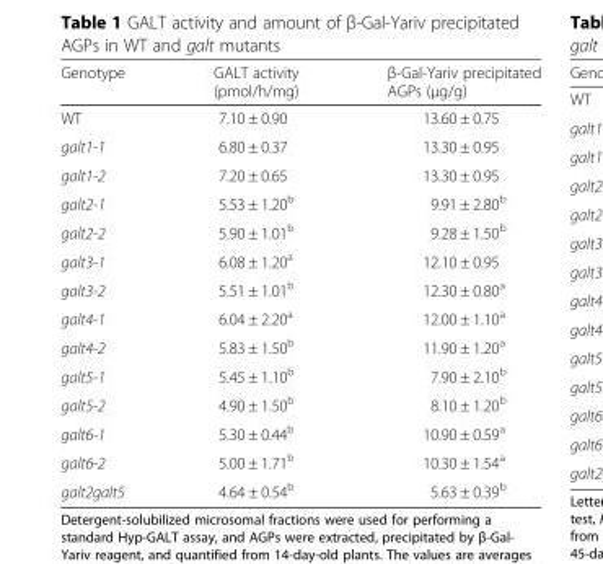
<table><thead><tr><td>Genotype</td><td>GALT activity (pmol/h/mg)</td><td>β-Gal-Yariv precipitated AGPs (μg/g)</td></tr></thead><tbody><tr><td>WT</td><td>7.10 ± 0.90</td><td>13.60 ± 0.75</td></tr><tr><td>galt1-1</td><td>6.80 ± 0.37</td><td>13.30 ± 0.95</td></tr><tr><td>galt1-2</td><td>7.20 ± 0.65</td><td>13.30 ± 0.95</td></tr><tr><td>galt2-1</td><td>5.53 ± 1.20<sup>b</sup></td><td>9.91 ± 2.80<sup>b</sup></td></tr><tr><td>galt2-2</td><td>5.90 ± 1.01<sup>b</sup></td><td>9.28 ± 1.50<sup>b</sup></td></tr><tr><td>galt3-1</td><td>6.08 ± 1.20<sup>a</sup></td><td>12.10 ± 0.95</td></tr><tr><td>galt3-2</td><td>5.51 ± 1.01<sup>b</sup></td><td>12.30 ± 0.80<sup>a</sup></td></tr><tr><td>galt4-1</td><td>6.04 ± 2.20<sup>a</sup></td><td>12.00 ± 1.10<sup>a</sup></td></tr><tr><td>galt4-2</td><td>5.83 ± 1.50<sup>b</sup></td><td>11.90 ± 1.20<sup>a</sup></td></tr><tr><td>galt5-1</td><td>5.45 ± 1.10<sup>b</sup></td><td>7.90 ± 2.10<sup>b</sup></td></tr><tr><td>galt5-2</td><td>4.90 ± 1.50<sup>b</sup></td><td>8.10 ± 1.20<sup>b</sup></td></tr><tr><td>galt6-1</td><td>5.30 ± 0.44<sup>b</sup></td><td>10.90 ± 0.59<sup>a</sup></td></tr><tr><td>galt6-2</td><td>5.00 ± 1.71<sup>b</sup></td><td>10.30 ± 1.54<sup>a</sup></td></tr><tr><td>galt2galt5</td><td>4.64 ± 0.54<sup>b</sup></td><td>5.63 ± 0.39<sup>b</sup></td></tr></tbody></table>